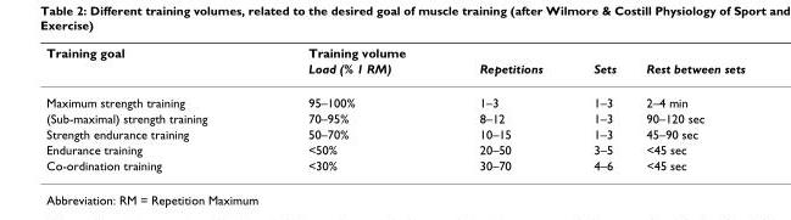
<table><thead><tr><td rowspan="2">Training goal</td><td rowspan="2">Training volume Load (% 1 RM)</td><td rowspan="2">Repetitions</td><td rowspan="2">Sets</td><td rowspan="2">Rest between sets</td></tr><tr></tr></thead><tbody><tr><td>Maximum strength training</td><td>95–100%</td><td>1–3</td><td>1–3</td><td>2–4 min</td></tr><tr><td>(Sub-maximal) strength training</td><td>70–95%</td><td>8–12</td><td>1–3</td><td>90–120 sec</td></tr><tr><td>Strength endurance training</td><td>50–70%</td><td>10–15</td><td>1–3</td><td>45–90 sec</td></tr><tr><td>Endurance training</td><td>&lt;50%</td><td>20–50</td><td>3–5</td><td>&lt;45 sec</td></tr><tr><td>Co-ordination training</td><td>&lt;30%</td><td>30–70</td><td>4–6</td><td>&lt;45 sec</td></tr></tbody></table>